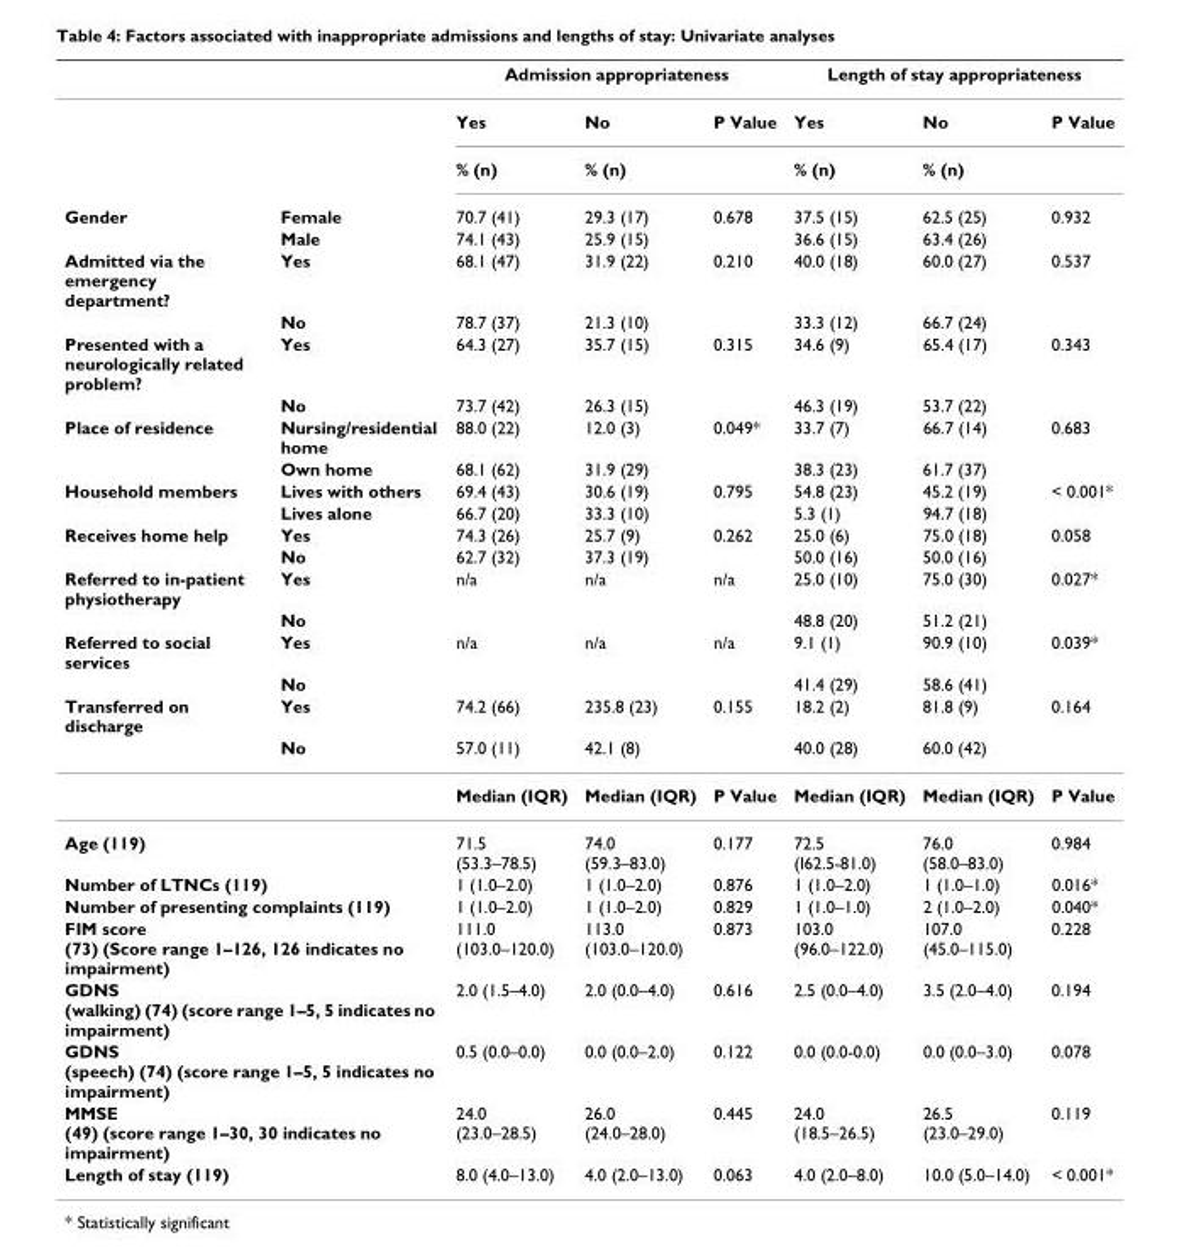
<table><thead><tr><td rowspan="2"></td><td rowspan="2"></td><td colspan="3">Admission appropriateness</td><td colspan="3">Length of stay appropriateness</td></tr><tr><td>Yes</td><td>No</td><td>P Value</td><td>Yes</td><td>No</td><td>P Value</td></tr></thead><tbody><tr><td></td><td></td><td>% (n)</td><td>% (n)</td><td></td><td>% (n)</td><td>% (n)</td><td></td></tr><tr><td rowspan="2">Gender</td><td>Female</td><td>70.7 (41)</td><td>29.3 (17)</td><td>0.678</td><td>37.5 (15)</td><td>62.5 (25)</td><td>0.932</td></tr><tr><td>Male</td><td>74.1 (43)</td><td>25.9 (15)</td><td></td><td>36.6 (15)</td><td>63.4 (26)</td><td></td></tr><tr><td rowspan="2">Admitted via the emergency department?</td><td>Yes</td><td>68.1 (47)</td><td>31.9 (22)</td><td>0.210</td><td>40.0 (18)</td><td>60.0 (27)</td><td>0.537</td></tr><tr><td>No</td><td>78.7 (37)</td><td>21.3 (10)</td><td></td><td>33.3 (12)</td><td>66.7 (24)</td><td></td></tr><tr><td rowspan="2">Presented with a neurologically related problem?</td><td>Yes</td><td>64.3 (27)</td><td>35.7 (15)</td><td>0.315</td><td>34.6 (9)</td><td>65.4 (17)</td><td>0.343</td></tr><tr><td>No</td><td>73.7 (42)</td><td>26.3 (15)</td><td></td><td>46.3 (19)</td><td>53.7 (22)</td><td></td></tr><tr><td rowspan="2">Place of residence</td><td>Nursing/residential home</td><td>88.0 (22)</td><td>12.0 (3)</td><td>0.049*</td><td>33.7 (7)</td><td>66.7 (14)</td><td>0.683</td></tr><tr><td>Own home</td><td>68.1 (62)</td><td>31.9 (29)</td><td></td><td>38.3 (23)</td><td>61.7 (37)</td><td></td></tr><tr><td rowspan="2">Household members</td><td>Lives with others</td><td>69.4 (43)</td><td>30.6 (19)</td><td>0.795</td><td>54.8 (23)</td><td>45.2 (19)</td><td>&lt; 0.001*</td></tr><tr><td>Lives alone</td><td>66.7 (20)</td><td>33.3 (10)</td><td></td><td>5.3 (1)</td><td>94.7 (18)</td><td></td></tr><tr><td rowspan="2">Receives home help</td><td>Yes</td><td>74.3 (26)</td><td>25.7 (9)</td><td>0.262</td><td>25.0 (6)</td><td>75.0 (18)</td><td>0.058</td></tr><tr><td>No</td><td>62.7 (32)</td><td>37.3 (19)</td><td></td><td>50.0 (16)</td><td>50.0 (16)</td><td></td></tr><tr><td rowspan="2">Referred to in-patient physiotherapy</td><td>Yes</td><td>n/a</td><td>n/a</td><td>n/a</td><td>25.0 (10)</td><td>75.0 (30)</td><td>0.027*</td></tr><tr><td>No</td><td></td><td></td><td></td><td>48.8 (20)</td><td>51.2 (21)</td><td></td></tr><tr><td rowspan="2">Referred to social services</td><td>Yes</td><td>n/a</td><td>n/a</td><td>n/a</td><td>9.1 (1)</td><td>90.9 (10)</td><td>0.039*</td></tr><tr><td>No</td><td></td><td></td><td></td><td>41.4 (29)</td><td>58.6 (41)</td><td></td></tr><tr><td rowspan="3">Transferred on discharge</td><td>Yes</td><td>74.2 (66)</td><td>235.8 (23)</td><td>0.155</td><td>18.2 (2)</td><td>81.8 (9)</td><td>0.164</td></tr><tr><td>No</td><td>57.0 (11)</td><td>42.1 (8)</td><td></td><td>40.0 (28)</td><td>60.0 (42)</td><td></td></tr><tr><td></td><td>Median (IQR)</td><td>Median (IQR)</td><td>P Value</td><td>Median (IQR)</td><td>Median (IQR)</td><td>P Value</td></tr><tr><td colspan="2">Age (119)</td><td>71.5 (53.3–78.5)</td><td>74.0 (59.3–83.0)</td><td>0.177</td><td>72.5 (I62.5-81.0)</td><td>76.0 (58.0–83.0)</td><td>0.984</td></tr><tr><td colspan="2">Number of LTNCs (119)</td><td>1 (1.0–2.0)</td><td>1 (1.0–2.0)</td><td>0.876</td><td>1 (1.0–2.0)</td><td>1 (1.0–1.0)</td><td>0.016*</td></tr><tr><td colspan="2">Number of presenting complaints (119)</td><td>1 (1.0–2.0)</td><td>1 (1.0–2.0)</td><td>0.829</td><td>1 (1.0–1.0)</td><td>2 (1.0–2.0)</td><td>0.040*</td></tr><tr><td colspan="2">FIM score (73) (Score range 1–126, 126 indicates no impairment)</td><td>111.0 (103.0–120.0)</td><td>113.0 (103.0–120.0)</td><td>0.873</td><td>103.0 (96.0–122.0)</td><td>107.0 (45.0–115.0)</td><td>0.228</td></tr><tr><td colspan="2">GDNS (walking) (74) (score range 1–5, 5 indicates no impairment)</td><td>2.0 (1.5–4.0)</td><td>2.0 (0.0–4.0)</td><td>0.616</td><td>2.5 (0.0–4.0)</td><td>3.5 (2.0–4.0)</td><td>0.194</td></tr><tr><td colspan="2">GDNS (speech) (74) (score range 1–5, 5 indicates no impairment)</td><td>0.5 (0.0–0.0)</td><td>0.0 (0.0–2.0)</td><td>0.122</td><td>0.0 (0.0-0.0)</td><td>0.0 (0.0–3.0)</td><td>0.078</td></tr><tr><td colspan="2">MMSE (49) (score range 1–30, 30 indicates no impairment)</td><td>24.0 (23.0–28.5)</td><td>26.0 (24.0–28.0)</td><td>0.445</td><td>24.0 (18.5–26.5)</td><td>26.5 (23.0–29.0)</td><td>0.119</td></tr><tr><td colspan="2">Length of stay (119)</td><td>8.0 (4.0–13.0)</td><td>4.0 (2.0–13.0)</td><td>0.063</td><td>4.0 (2.0–8.0)</td><td>10.0 (5.0–14.0)</td><td>&lt; 0.001*</td></tr></tbody></table>